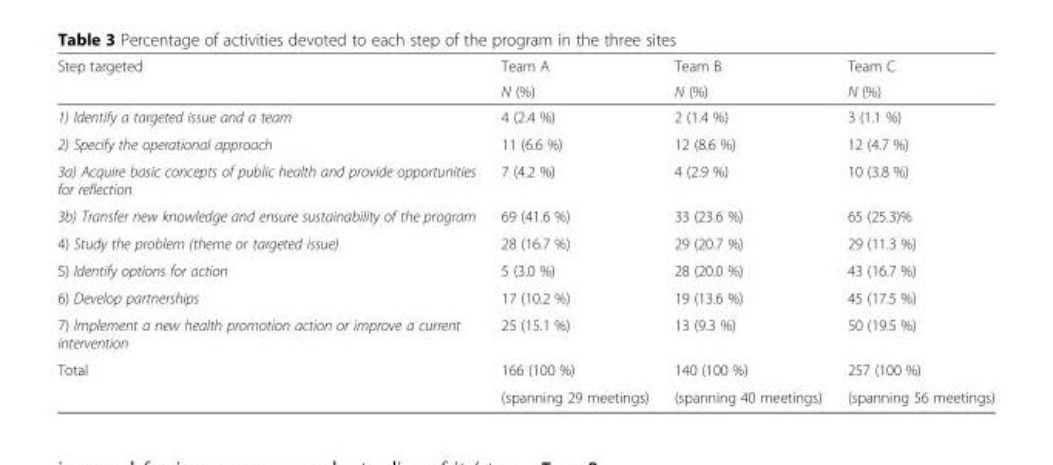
<table><thead><tr><td rowspan="2">Step targeted</td><td rowspan="2">Team A N (%)</td><td rowspan="2">Team B N (%)</td><td rowspan="2">Team C N (%)</td></tr><tr></tr></thead><tbody><tr><td>1) Identify a targeted issue and a team</td><td>4 (2.4 %)</td><td>2 (1.4 %)</td><td>3 (1.1 %)</td></tr><tr><td>2) Specify the operational approach</td><td>11 (6.6 %)</td><td>12 (8.6 %)</td><td>12 (4.7 %)</td></tr><tr><td>3a) Acquire basic concepts of public health and provide opportunities for reflection</td><td>7 (4.2 %)</td><td>4 (2.9 %)</td><td>10 (3.8 %)</td></tr><tr><td>3b) Transfer new knowledge and ensure sustainability of the program</td><td>69 (41.6 %)</td><td>33 (23.6 %)</td><td>65 (25.3)%</td></tr><tr><td>4) Study the problem (theme or targeted issue)</td><td>28 (16.7 %)</td><td>29 (20.7 %)</td><td>29 (11.3 %)</td></tr><tr><td>5) Identify options for action</td><td>5 (3.0 %)</td><td>28 (20.0 %)</td><td>43 (16.7 %)</td></tr><tr><td>6) Develop partnerships</td><td>17 (10.2 %)</td><td>19 (13.6 %)</td><td>45 (17.5 %)</td></tr><tr><td>7) Implement a new health promotion action or improve a current intervention</td><td>25 (15.1 %)</td><td>13 (9.3 %)</td><td>50 (19.5 %)</td></tr><tr><td rowspan="2">Total</td><td>166 (100 %)</td><td>140 (100 %)</td><td>257 (100 %)</td></tr><tr><td>(spanning 29 meetings)</td><td>(spanning 40 meetings)</td><td>(spanning 56 meetings)</td></tr></tbody></table>